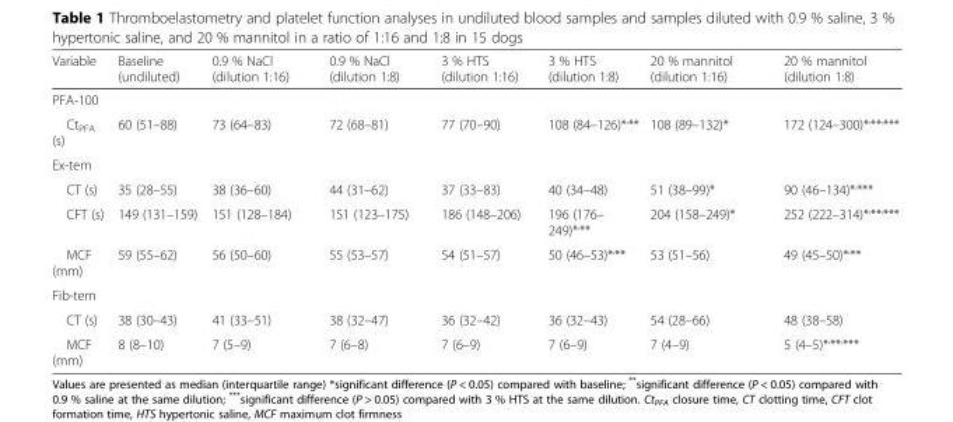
<table><thead><tr><td>Variable</td><td>Baseline (undiluted)</td><td>0.9 % NaCl (dilution 1:16)</td><td>0.9 % NaCl (dilution 1:8)</td><td>3 % HTS (dilution 1:16)</td><td>3 % HTS (dilution 1:8)</td><td>20 % mannitol (dilution 1:16)</td><td>20 % mannitol (dilution 1:8)</td></tr></thead><tbody><tr><td colspan="8">PFA-100</td></tr><tr><td>Ct<sub>PFA</sub> (s)</td><td>60 (51–88)</td><td>73 (64–83)</td><td>72 (68–81)</td><td>77 (70–90)</td><td>108 (84–126)*<sup>,</sup>**</td><td>108 (89–132)*</td><td>172 (124–300)*<sup>,</sup>**<sup>,</sup>***</td></tr><tr><td colspan="8">Ex-tem</td></tr><tr><td>CT (s)</td><td>35 (28–55)</td><td>38 (36–60)</td><td>44 (31–62)</td><td>37 (33–83)</td><td>40 (34–48)</td><td>51 (38–99)*</td><td>90 (46–134)*<sup>,</sup>***</td></tr><tr><td>CFT (s)</td><td>149 (131–159)</td><td>151 (128–184)</td><td>151 (123–175)</td><td>186 (148–206)</td><td>196 (176– 249)*<sup>,</sup>**</td><td>204 (158–249)*</td><td>252 (222–314)*<sup>,</sup>**<sup>,</sup>***</td></tr><tr><td>MCF (mm)</td><td>59 (55–62)</td><td>56 (50–60)</td><td>55 (53–57)</td><td>54 (51–57)</td><td>50 (46–53)*<sup>,</sup>**</td><td>53 (51–56)</td><td>49 (45–50)*<sup>,</sup>**</td></tr><tr><td colspan="8">Fib-tem</td></tr><tr><td>CT (s)</td><td>38 (30–43)</td><td>41 (33–51)</td><td>38 (32–47)</td><td>36 (32–42)</td><td>36 (32–43)</td><td>54 (28–66)</td><td>48 (38–58)</td></tr><tr><td>MCF (mm)</td><td>8 (8–10)</td><td>7 (5–9)</td><td>7 (6–8)</td><td>7 (6–9)</td><td>7 (6–9)</td><td>7 (4–9)</td><td>5 (4–5)*<sup>,</sup>**<sup>,</sup>***</td></tr></tbody></table>